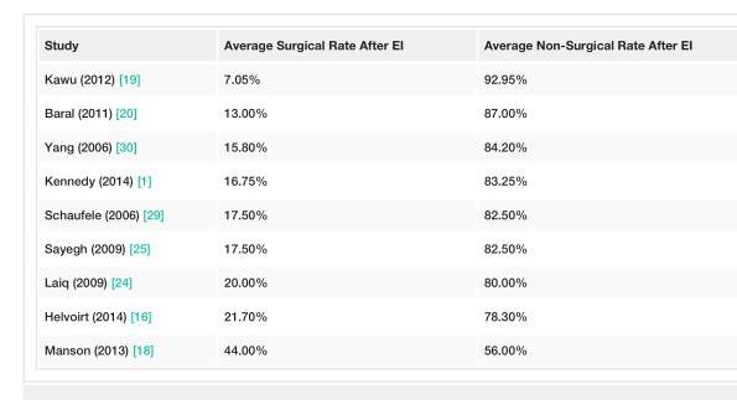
<table><tbody><tr><td>Study</td><td>Average Surgical Rate After EI</td><td>Average Non-Surgical Rate After EI</td></tr><tr><td>Kawu (2012) [19]</td><td>7.05%</td><td>92.95%</td></tr><tr><td>Baral (2011) [20]</td><td>13.00%</td><td>87.00%</td></tr><tr><td>Yang (2006) [30]</td><td>15.80%</td><td>84.20%</td></tr><tr><td>Kennedy (2014) [1]</td><td>16.75%</td><td>83.25%</td></tr><tr><td>Schaufele (2006) [29]</td><td>17.50%</td><td>82.50%</td></tr><tr><td>Sayegh (2009) [25]</td><td>17.50%</td><td>82.50%</td></tr><tr><td>Laiq (2009) [24]</td><td>20.00%</td><td>80.00%</td></tr><tr><td>Helvoirt (2014) [16]</td><td>21.70%</td><td>78.30%</td></tr><tr><td>Manson (2013) [18]</td><td>44.00%</td><td>56.00%</td></tr></tbody></table>